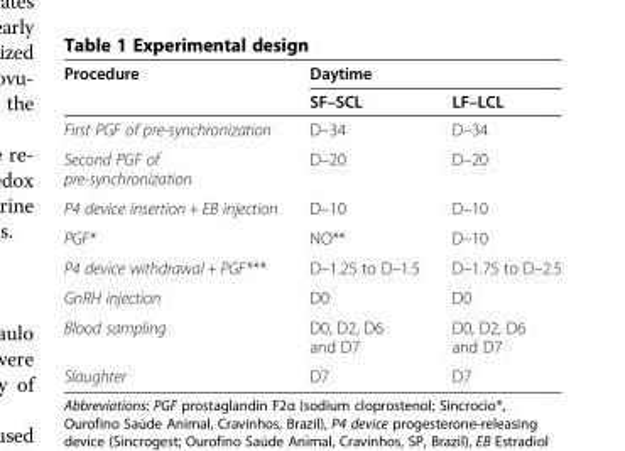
<table><thead><tr><td rowspan="2">Procedure</td><td colspan="2">Daytime</td></tr><tr><td>SF–SCL</td><td>LF–LCL</td></tr></thead><tbody><tr><td>First PGF of pre-synchronization</td><td>D–34</td><td>D–34</td></tr><tr><td>Second PGF of pre-synchronization</td><td>D–20</td><td>D–20</td></tr><tr><td>P4 device insertion + EB injection</td><td>D–10</td><td>D–10</td></tr><tr><td>PGF*</td><td>NO**</td><td>D–10</td></tr><tr><td>P4 device withdrawal + PGF***</td><td>D–1.25 to D–1.5</td><td>D–1.75 to D–2.5</td></tr><tr><td>GnRH injection</td><td>D0</td><td>D0</td></tr><tr><td>Blood sampling</td><td>D0, D2, D6 and D7</td><td>D0, D2, D6 and D7</td></tr><tr><td>Slaughter</td><td>D7</td><td>D7</td></tr></tbody></table>